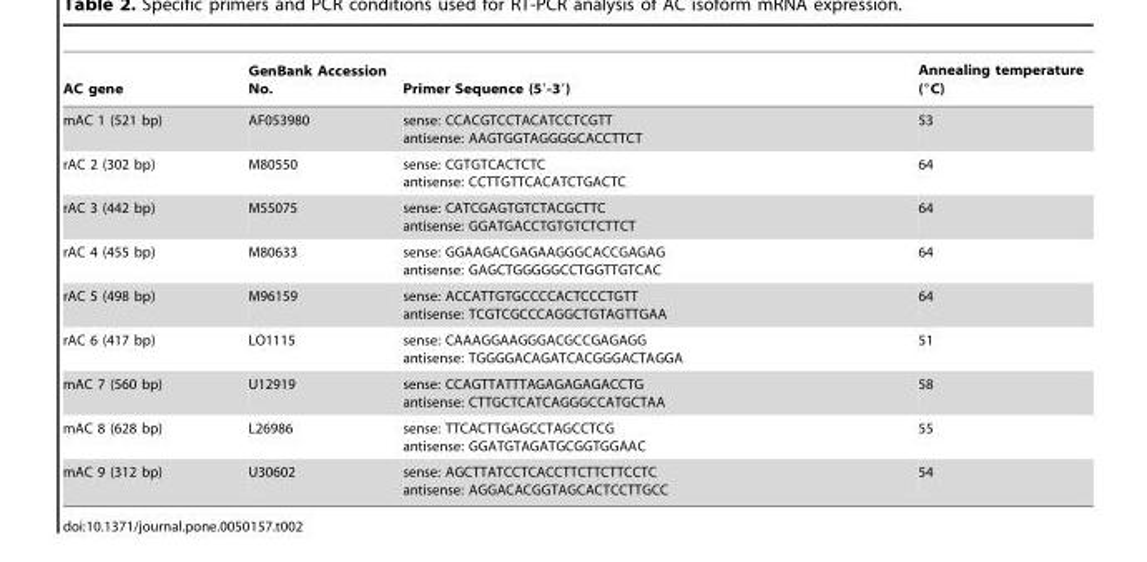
<table><thead><tr><td>AC gene</td><td>GenBank Accession No.</td><td>Primer Sequence (5′-3′)</td><td>Annealing temperature (°C)</td></tr></thead><tbody><tr><td>mAC 1 (521 bp)</td><td>AF053980</td><td>sense: CCACGTCCTACATCCTCGTT antisense: AAGTGGTAGGGGCACCTTCT</td><td>53</td></tr><tr><td>rAC 2 (302 bp)</td><td>M80550</td><td>sense: CGTGTCACTCTC antisense: CCTTGTTCACATCTGACTC</td><td>64</td></tr><tr><td>rAC 3 (442 bp)</td><td>M55075</td><td>sense: CATCGAGTGTCTACGCTTC antisense: GGATGACCTGTGTCTCTTCT</td><td>64</td></tr><tr><td>rAC 4 (455 bp)</td><td>M80633</td><td>sense: GGAAGACGAGAAGGGCACCGAGAG antisense: GAGCTGGGGGCCTGGTTGTCAC</td><td>64</td></tr><tr><td>rAC 5 (498 bp)</td><td>M96159</td><td>sense: ACCATTGTGCCCCACTCCCTGTT antisense: TCGTCGCCCAGGCTGTAGTTGAA</td><td>64</td></tr><tr><td>rAC 6 (417 bp)</td><td>LO1115</td><td>sense: CAAAGGAAGGGACGCCGAGAGG antisense: TGGGGACAGATCACGGGACTAGGA</td><td>51</td></tr><tr><td>mAC 7 (560 bp)</td><td>U12919</td><td>sense: CCAGTTATTTAGAGAGAGACCTG antisense: CTTGCTCATCAGGGCCATGCTAA</td><td>58</td></tr><tr><td>mAC 8 (628 bp)</td><td>L26986</td><td>sense: TTCACTTGAGCCTAGCCTCG antisense: GGATGTAGATGCGGTGGAAC</td><td>55</td></tr><tr><td>mAC 9 (312 bp)</td><td>U30602</td><td>sense: AGCTTATCCTCACCTTCTTCTTCCTC antisense: AGGACACGGTAGCACTCCTTGCC</td><td>54</td></tr></tbody></table>